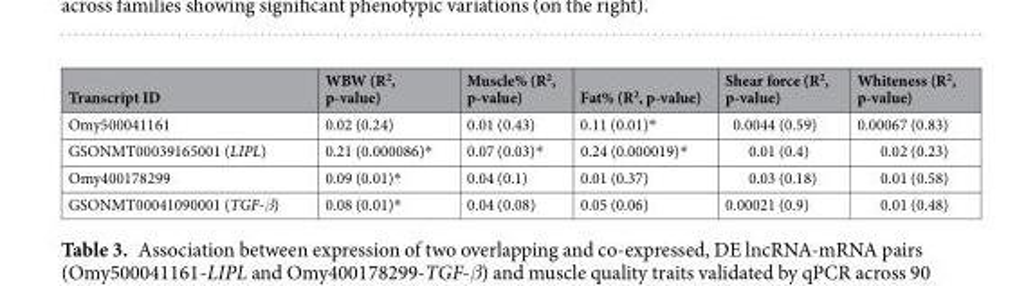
<table><thead><tr><td>Transcript ID</td><td>WBW (R<sup>2</sup>, p-value)</td><td>Muscle% (R<sup>2</sup>, p-value)</td><td>Fat% (R<sup>2</sup>, p-value)</td><td>Shear force (R<sup>2</sup>, p-value)</td><td>Whiteness (R<sup>2</sup>, p-value)</td></tr></thead><tbody><tr><td>Omy500041161</td><td>0.02 (0.24)</td><td>0.01 (0.43)</td><td>0.11 (0.01)*</td><td>0.0044 (0.59)</td><td>0.00067 (0.83)</td></tr><tr><td>GSONMT00039165001 (LIPL)</td><td>0.21 (0.000086)*</td><td>0.07 (0.03)*</td><td>0.24 (0.000019)*</td><td>0.01 (0.4)</td><td>0.02 (0.23)</td></tr><tr><td>Omy400178299</td><td>0.09 (0.01)*</td><td>0.04 (0.1)</td><td>0.01 (0.37)</td><td>0.03 (0.18)</td><td>0.01 (0.58)</td></tr><tr><td>GSONMT00041090001 (TGF-β)</td><td>0.08 (0.01)*</td><td>0.04 (0.08)</td><td>0.05 (0.06)</td><td>0.00021 (0.9)</td><td>0.01 (0.48)</td></tr></tbody></table>